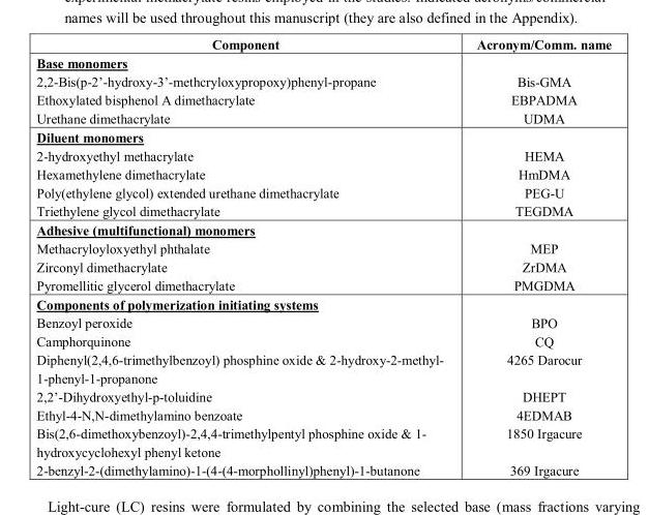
<table><thead><tr><td>Component</td><td>Acronym/Comm. name</td></tr></thead><tbody><tr><td colspan="2">Base monomers</td></tr><tr><td>2,2-Bis(p-2’-hydroxy-3’-methcryloxypropoxy)phenyl-propane</td><td>Bis-GMA</td></tr><tr><td>Ethoxylated bisphenol A dimethacrylate</td><td>EBPADMA</td></tr><tr><td>Urethane dimethacrylate</td><td>UDMA</td></tr><tr><td colspan="2">Diluent monomers</td></tr><tr><td>2-hydroxyethyl methacrylate</td><td>HEMA</td></tr><tr><td>Hexamethylene dimethacrylate</td><td>HmDMA</td></tr><tr><td>Poly(ethylene glycol) extended urethane dimethacrylate</td><td>PEG-U</td></tr><tr><td>Triethylene glycol dimethacrylate</td><td>TEGDMA</td></tr><tr><td colspan="2">Adhesive (multifunctional) monomers</td></tr><tr><td>Methacryloyloxyethyl phthalate</td><td>MEP</td></tr><tr><td>Zirconyl dimethacrylate</td><td>ZrDMA</td></tr><tr><td>Pyromellitic glycerol dimethacrylate</td><td>PMGDMA</td></tr><tr><td colspan="2">Components of polymerization initiating systems</td></tr><tr><td>Benzoyl peroxide</td><td>BPO</td></tr><tr><td>Camphorquinone</td><td>CQ</td></tr><tr><td>Diphenyl(2,4,6-trimethylbenzoyl) phosphine oxide &amp; 2-hydroxy-2-methyl- 1-phenyl-1-propanone</td><td>4265 Darocur</td></tr><tr><td>2,2’-Dihydroxyethyl-p-toluidine</td><td>DHEPT</td></tr><tr><td>Ethyl-4-N,N-dimethylamino benzoate</td><td>4EDMAB</td></tr><tr><td>Bis(2,6-dimethoxybenzoyl)-2,4,4-trimethylpentyl phosphine oxide &amp; 1- hydroxycyclohexyl phenyl ketone</td><td>1850 Irgacure</td></tr><tr><td>2-benzyl-2-(dimethylamino)-1-(4-(4-morphollinyl)phenyl)-1-butanone</td><td>369 Irgacure</td></tr></tbody></table>